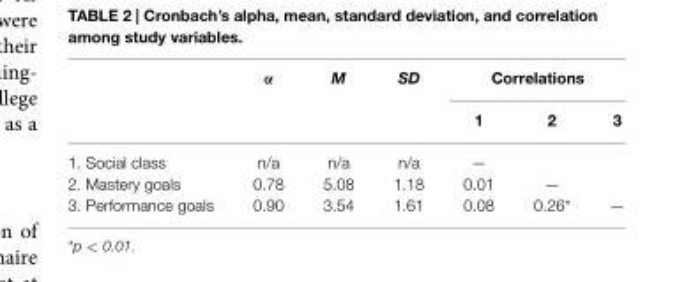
<table><thead><tr><td rowspan="2"></td><td rowspan="2">α</td><td rowspan="2">M</td><td rowspan="2">SD</td><td colspan="3">Correlations</td></tr><tr><td>1</td><td>2</td><td>3</td></tr></thead><tbody><tr><td>1. Social class</td><td>n/a</td><td>n/a</td><td>n/a</td><td>—</td><td></td><td></td></tr><tr><td>2. Mastery goals</td><td>0.78</td><td>5.08</td><td>1.18</td><td>0.01</td><td>—</td><td></td></tr><tr><td>3. Performance goals</td><td>0.90</td><td>3.54</td><td>1.61</td><td>0.08</td><td>0.26*</td><td>—</td></tr></tbody></table>